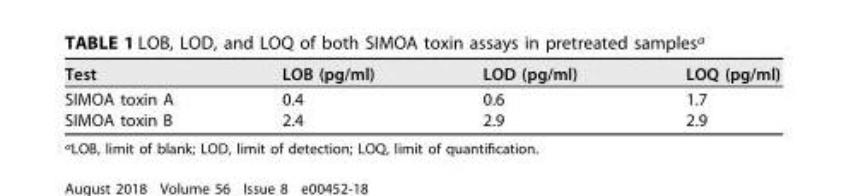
<table><thead><tr><td>Test</td><td>LOB (pg/ml)</td><td>LOD (pg/ml)</td><td>LOQ (pg/ml)</td></tr></thead><tbody><tr><td>SIMOA toxin A</td><td>0.4</td><td>0.6</td><td>1.7</td></tr><tr><td>SIMOA toxin B</td><td>2.4</td><td>2.9</td><td>2.9</td></tr></tbody></table>